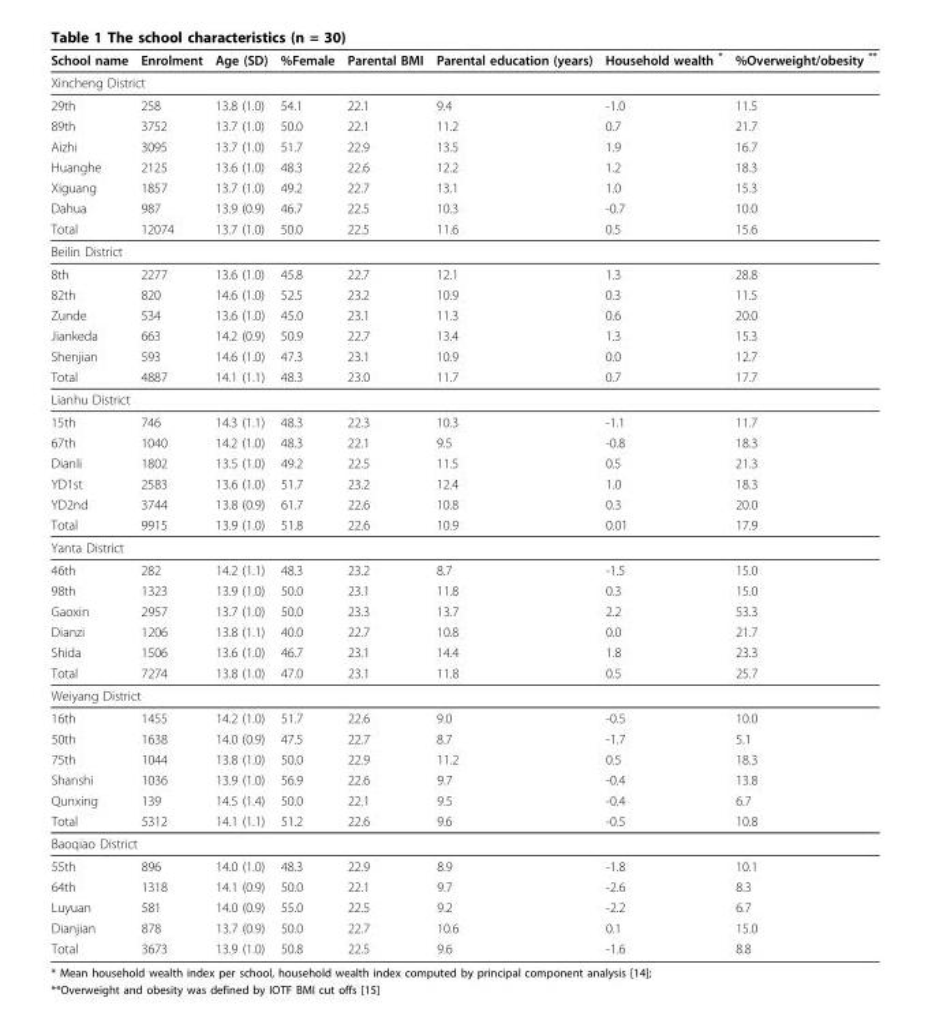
<table><thead><tr><td>School name</td><td>Enrolment</td><td>Age (SD)</td><td>%Female</td><td>Parental BMI</td><td>Parental education (years)</td><td>Household wealth *</td><td>%Overweight/obesity **</td></tr></thead><tbody><tr><td colspan="8">Xincheng District</td></tr><tr><td>29th</td><td>258</td><td>13.8 (1.0)</td><td>54.1</td><td>22.1</td><td>9.4</td><td>-1.0</td><td>11.5</td></tr><tr><td>89th</td><td>3752</td><td>13.7 (1.0)</td><td>50.0</td><td>22.1</td><td>11.2</td><td>0.7</td><td>21.7</td></tr><tr><td>Aizhi</td><td>3095</td><td>13.7 (1.0)</td><td>51.7</td><td>22.9</td><td>13.5</td><td>1.9</td><td>16.7</td></tr><tr><td>Huanghe</td><td>2125</td><td>13.6 (1.0)</td><td>48.3</td><td>22.6</td><td>12.2</td><td>1.2</td><td>18.3</td></tr><tr><td>Xiguang</td><td>1857</td><td>13.7 (1.0)</td><td>49.2</td><td>22.7</td><td>13.1</td><td>1.0</td><td>15.3</td></tr><tr><td>Dahua</td><td>987</td><td>13.9 (0.9)</td><td>46.7</td><td>22.5</td><td>10.3</td><td>-0.7</td><td>10.0</td></tr><tr><td>Total</td><td>12074</td><td>13.7 (1.0)</td><td>50.0</td><td>22.5</td><td>11.6</td><td>0.5</td><td>15.6</td></tr><tr><td colspan="8">Beilin District</td></tr><tr><td>8th</td><td>2277</td><td>13.6 (1.0)</td><td>45.8</td><td>22.7</td><td>12.1</td><td>1.3</td><td>28.8</td></tr><tr><td>82th</td><td>820</td><td>14.6 (1.0)</td><td>52.5</td><td>23.2</td><td>10.9</td><td>0.3</td><td>11.5</td></tr><tr><td>Zunde</td><td>534</td><td>13.6 (1.0)</td><td>45.0</td><td>23.1</td><td>11.3</td><td>0.6</td><td>20.0</td></tr><tr><td>Jiankeda</td><td>663</td><td>14.2 (0.9)</td><td>50.9</td><td>22.7</td><td>13.4</td><td>1.3</td><td>15.3</td></tr><tr><td>Shenjian</td><td>593</td><td>14.6 (1.0)</td><td>47.3</td><td>23.1</td><td>10.9</td><td>0.0</td><td>12.7</td></tr><tr><td>Total</td><td>4887</td><td>14.1 (1.1)</td><td>48.3</td><td>23.0</td><td>11.7</td><td>0.7</td><td>17.7</td></tr><tr><td colspan="8">Lianhu District</td></tr><tr><td>15th</td><td>746</td><td>14.3 (1.1)</td><td>48.3</td><td>22.3</td><td>10.3</td><td>-1.1</td><td>11.7</td></tr><tr><td>67th</td><td>1040</td><td>14.2 (1.0)</td><td>48.3</td><td>22.1</td><td>9.5</td><td>-0.8</td><td>18.3</td></tr><tr><td>Dianli</td><td>1802</td><td>13.5 (1.0)</td><td>49.2</td><td>22.5</td><td>11.5</td><td>0.5</td><td>21.3</td></tr><tr><td>YD1st</td><td>2583</td><td>13.6 (1.0)</td><td>51.7</td><td>23.2</td><td>12.4</td><td>1.0</td><td>18.3</td></tr><tr><td>YD2nd</td><td>3744</td><td>13.8 (0.9)</td><td>61.7</td><td>22.6</td><td>10.8</td><td>0.3</td><td>20.0</td></tr><tr><td>Total</td><td>9915</td><td>13.9 (1.0)</td><td>51.8</td><td>22.6</td><td>10.9</td><td>0.01</td><td>17.9</td></tr><tr><td colspan="8">Yanta District</td></tr><tr><td>46th</td><td>282</td><td>14.2 (1.1)</td><td>48.3</td><td>23.2</td><td>8.7</td><td>-1.5</td><td>15.0</td></tr><tr><td>98th</td><td>1323</td><td>13.9 (1.0)</td><td>50.0</td><td>23.1</td><td>11.8</td><td>0.3</td><td>15.0</td></tr><tr><td>Gaoxin</td><td>2957</td><td>13.7 (1.0)</td><td>50.0</td><td>23.3</td><td>13.7</td><td>2.2</td><td>53.3</td></tr><tr><td>Dianzi</td><td>1206</td><td>13.8 (1.1)</td><td>40.0</td><td>22.7</td><td>10.8</td><td>0.0</td><td>21.7</td></tr><tr><td>Shida</td><td>1506</td><td>13.6 (1.0)</td><td>46.7</td><td>23.1</td><td>14.4</td><td>1.8</td><td>23.3</td></tr><tr><td>Total</td><td>7274</td><td>13.8 (1.0)</td><td>47.0</td><td>23.1</td><td>11.8</td><td>0.5</td><td>25.7</td></tr><tr><td colspan="8">Weiyang District</td></tr><tr><td>16th</td><td>1455</td><td>14.2 (1.0)</td><td>51.7</td><td>22.6</td><td>9.0</td><td>-0.5</td><td>10.0</td></tr><tr><td>50th</td><td>1638</td><td>14.0 (0.9)</td><td>47.5</td><td>22.7</td><td>8.7</td><td>-1.7</td><td>5.1</td></tr><tr><td>75th</td><td>1044</td><td>13.8 (1.0)</td><td>50.0</td><td>22.9</td><td>11.2</td><td>0.5</td><td>18.3</td></tr><tr><td>Shanshi</td><td>1036</td><td>13.9 (1.0)</td><td>56.9</td><td>22.6</td><td>9.7</td><td>-0.4</td><td>13.8</td></tr><tr><td>Qunxing</td><td>139</td><td>14.5 (1.4)</td><td>50.0</td><td>22.1</td><td>9.5</td><td>-0.4</td><td>6.7</td></tr><tr><td>Total</td><td>5312</td><td>14.1 (1.1)</td><td>51.2</td><td>22.6</td><td>9.6</td><td>-0.5</td><td>10.8</td></tr><tr><td colspan="8">Baoqiao District</td></tr><tr><td>55th</td><td>896</td><td>14.0 (1.0)</td><td>48.3</td><td>22.9</td><td>8.9</td><td>-1.8</td><td>10.1</td></tr><tr><td>64th</td><td>1318</td><td>14.1 (0.9)</td><td>50.0</td><td>22.1</td><td>9.7</td><td>-2.6</td><td>8.3</td></tr><tr><td>Luyuan</td><td>581</td><td>14.0 (0.9)</td><td>55.0</td><td>22.5</td><td>9.2</td><td>-2.2</td><td>6.7</td></tr><tr><td>Dianjian</td><td>878</td><td>13.7 (0.9)</td><td>50.0</td><td>22.7</td><td>10.6</td><td>0.1</td><td>15.0</td></tr><tr><td>Total</td><td>3673</td><td>13.9 (1.0)</td><td>50.8</td><td>22.5</td><td>9.6</td><td>-1.6</td><td>8.8</td></tr></tbody></table>